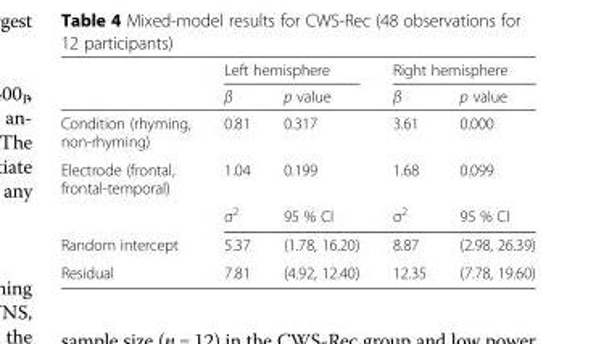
<table><thead><tr><td rowspan="2"></td><td colspan="2">Left hemisphere</td><td colspan="2">Right hemisphere</td></tr><tr><td>β</td><td>p value</td><td>β</td><td>p value</td></tr></thead><tbody><tr><td>Condition (rhyming, non-rhyming)</td><td>0.81</td><td>0.317</td><td>3.61</td><td>0.000</td></tr><tr><td rowspan="2">Electrode (frontal, frontal-temporal)</td><td>1.04</td><td>0.199</td><td>1.68</td><td>0.099</td></tr><tr><td>σ<sup>2</sup></td><td>95 % CI</td><td>σ<sup>2</sup></td><td>95 % CI</td></tr><tr><td>Random intercept</td><td>5.37</td><td>(1.78, 16.20)</td><td>8.87</td><td>(2.98, 26.39)</td></tr><tr><td>Residual</td><td>7.81</td><td>(4.92, 12.40)</td><td>12.35</td><td>(7.78, 19.60)</td></tr></tbody></table>